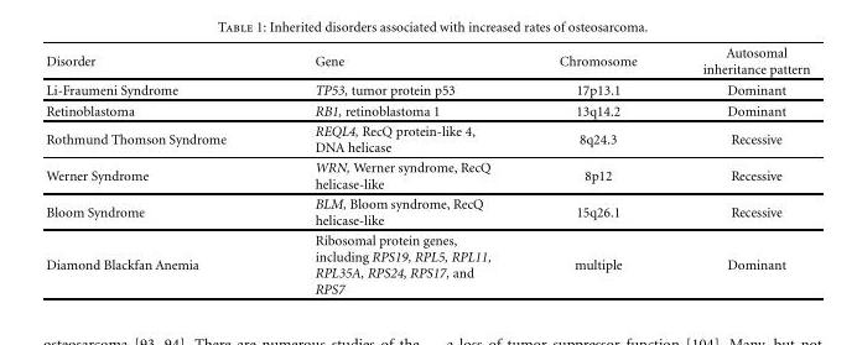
<table><thead><tr><td>Disorder</td><td>Gene</td><td>Chromosome</td><td>Autosomal inheritance pattern</td></tr></thead><tbody><tr><td>Li-Fraumeni Syndrome</td><td>TP53, tumor protein p53</td><td>17p13.1</td><td>Dominant</td></tr><tr><td>Retinoblastoma</td><td>RB1, retinoblastoma 1</td><td>13q14.2</td><td>Dominant</td></tr><tr><td>Rothmund Thomson Syndrome</td><td>REQL4, RecQ protein-like 4, DNA helicase</td><td>8q24.3</td><td>Recessive</td></tr><tr><td>Werner Syndrome</td><td>WRN, Werner syndrome, RecQ helicase-like</td><td>8p12</td><td>Recessive</td></tr><tr><td>Bloom Syndrome</td><td>BLM, Bloom syndrome, RecQ helicase-like</td><td>15q26.1</td><td>Recessive</td></tr><tr><td>Diamond Blackfan Anemia</td><td>Ribosomal protein genes, including RPS19, RPL5, RPL11, RPL35A, RPS24, RPS17, and RPS7</td><td>multiple</td><td>Dominant</td></tr></tbody></table>